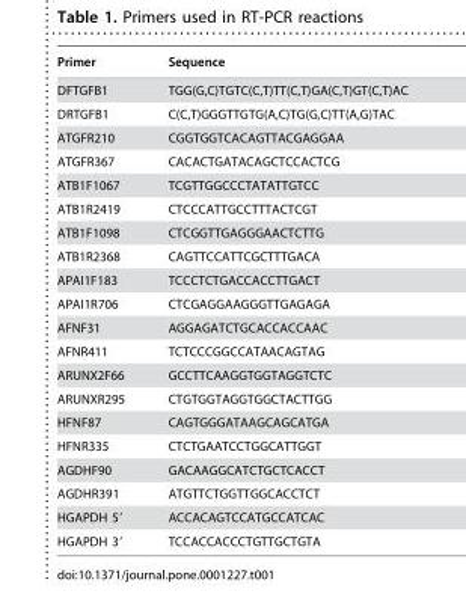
<table><thead><tr><td>Primer</td><td>Sequence</td></tr></thead><tbody><tr><td>DFTGFB1</td><td>TGG(G,C)TGTC(C,T)TT(C,T)GA(C,T)GT(C,T)AC</td></tr><tr><td>DRTGFB1</td><td>C(C,T)GGGTTGTG(A,C)TG(G,C)TT(A,G)TAC</td></tr><tr><td>ATGFR210</td><td>CGGTGGTCACAGTTACGAGGAA</td></tr><tr><td>ATGFR367</td><td>CACACTGATACAGCTCCACTCG</td></tr><tr><td>ATB1F1067</td><td>TCGTTGGCCCTATATTGTCC</td></tr><tr><td>ATB1R2419</td><td>CTCCCATTGCCTTTACTCGT</td></tr><tr><td>ATB1F1098</td><td>CTCGGTTGAGGGAACTCTTG</td></tr><tr><td>ATB1R2368</td><td>CAGTTCCATTCGCTTTGACA</td></tr><tr><td>APAI1F183</td><td>TCCCTCTGACCACCTTGACT</td></tr><tr><td>APAI1R706</td><td>CTCGAGGAAGGGTTGAGAGA</td></tr><tr><td>AFNF31</td><td>AGGAGATCTGCACCACCAAC</td></tr><tr><td>AFNR411</td><td>TCTCCCGGCCATAACAGTAG</td></tr><tr><td>ARUNX2F66</td><td>GCCTTCAAGGTGGTAGGTCTC</td></tr><tr><td>ARUNXR295</td><td>CTGTGGTAGGTGGCTACTTGG</td></tr><tr><td>HFNF87</td><td>CAGTGGGATAAGCAGCATGA</td></tr><tr><td>HFNR335</td><td>CTCTGAATCCTGGCATTGGT</td></tr><tr><td>AGDHF90</td><td>GACAAGGCATCTGCTCACCT</td></tr><tr><td>AGDHR391</td><td>ATGTTCTGGTTGGCACCTCT</td></tr><tr><td>HGAPDH 5′</td><td>ACCACAGTCCATGCCATCAC</td></tr><tr><td>HGAPDH 3′</td><td>TCCACCACCCTGTTGCTGTA</td></tr></tbody></table>